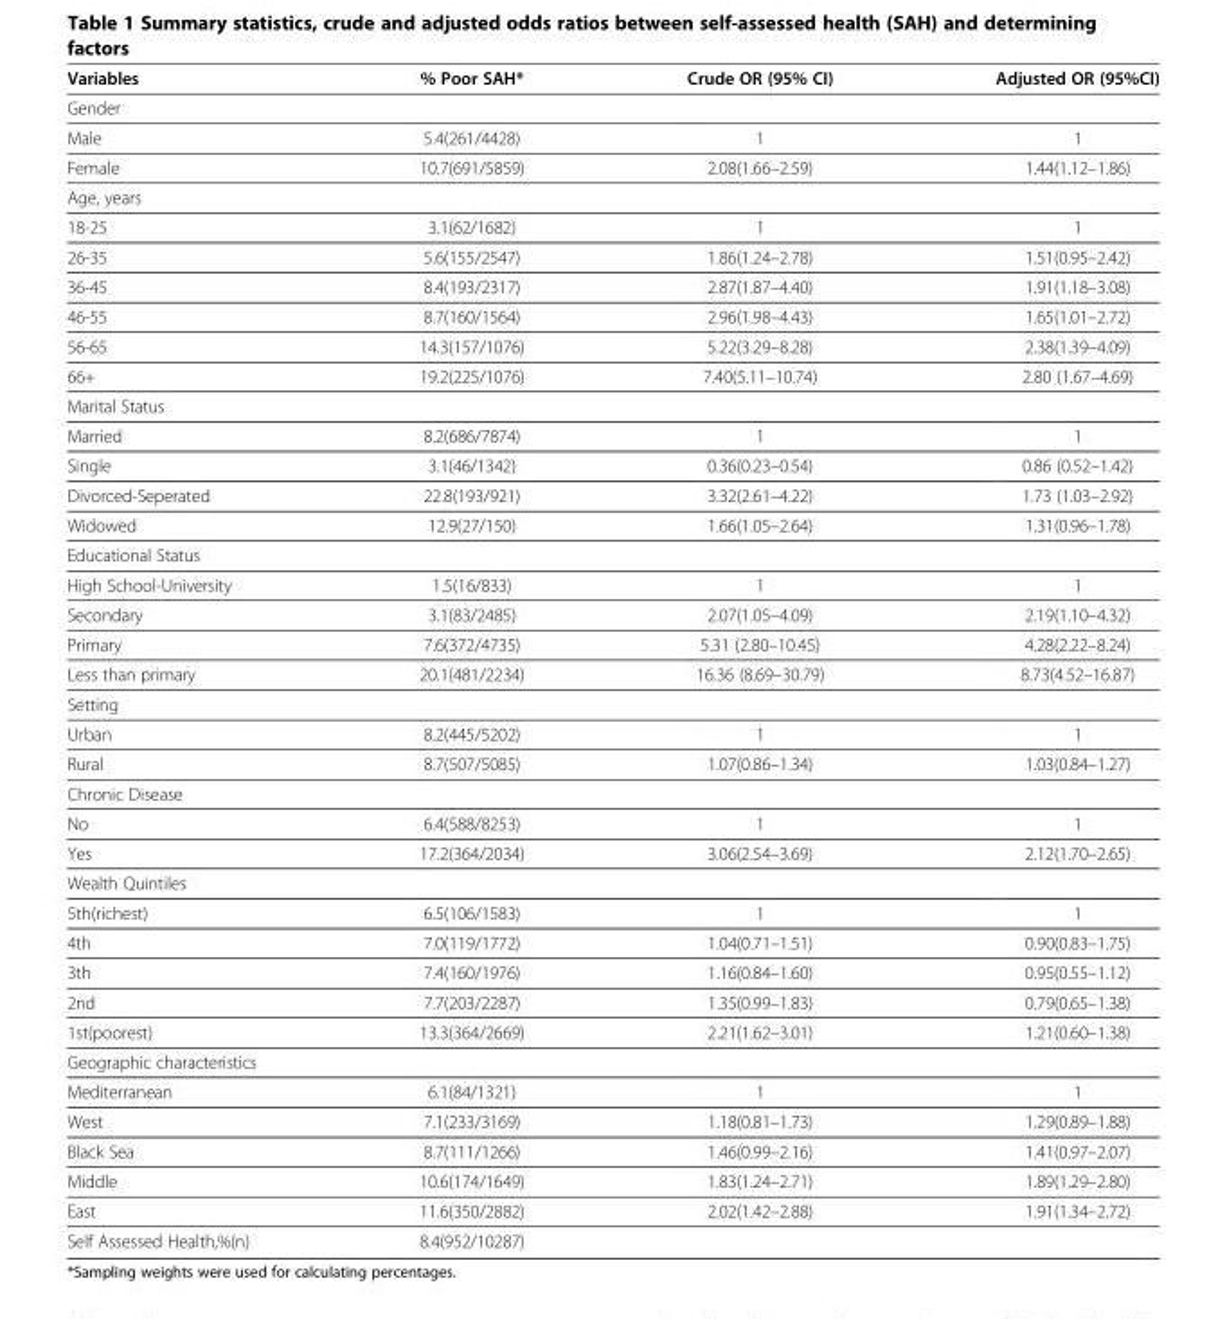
<table><thead><tr><td>Variables</td><td>% Poor SAH*</td><td>Crude OR (95% CI)</td><td>Adjusted OR (95%CI)</td></tr></thead><tbody><tr><td colspan="4">Gender</td></tr><tr><td>Male</td><td>5.4(261/4428)</td><td>1</td><td>1</td></tr><tr><td>Female</td><td>10.7(691/5859)</td><td>2.08(1.66–2.59)</td><td>1.44(1.12–1.86)</td></tr><tr><td colspan="4">Age, years</td></tr><tr><td>18-25</td><td>3.1(62/1682)</td><td>1</td><td>1</td></tr><tr><td>26-35</td><td>5.6(155/2547)</td><td>1.86(1.24–2.78)</td><td>1.51(0.95–2.42)</td></tr><tr><td>36-45</td><td>8.4(193/2317)</td><td>2.87(1.87–4.40)</td><td>1.91(1.18–3.08)</td></tr><tr><td>46-55</td><td>8.7(160/1564)</td><td>2.96(1.98–4.43)</td><td>1.65(1.01–2.72)</td></tr><tr><td>56-65</td><td>14.3(157/1076)</td><td>5.22(3.29–8.28)</td><td>2.38(1.39–4.09)</td></tr><tr><td>66+</td><td>19.2(225/1076)</td><td>7.40(5.11–10.74)</td><td>2.80 (1.67–4.69)</td></tr><tr><td colspan="4">Marital Status</td></tr><tr><td>Married</td><td>8.2(686/7874)</td><td>1</td><td>1</td></tr><tr><td>Single</td><td>3.1(46/1342)</td><td>0.36(0.23–0.54)</td><td>0.86 (0.52–1.42)</td></tr><tr><td>Divorced-Seperated</td><td>22.8(193/921)</td><td>3.32(2.61–4.22)</td><td>1.73 (1.03–2.92)</td></tr><tr><td>Widowed</td><td>12.9(27/150)</td><td>1.66(1.05–2.64)</td><td>1.31(0.96–1.78)</td></tr><tr><td colspan="4">Educational Status</td></tr><tr><td>High School-University</td><td>1.5(16/833)</td><td>1</td><td>1</td></tr><tr><td>Secondary</td><td>3.1(83/2485)</td><td>2.07(1.05–4.09)</td><td>2.19(1.10–4.32)</td></tr><tr><td>Primary</td><td>7.6(372/4735)</td><td>5.31 (2.80–10.45)</td><td>4.28(2.22–8.24)</td></tr><tr><td>Less than primary</td><td>20.1(481/2234)</td><td>16.36 (8.69–30.79)</td><td>8.73(4.52–16.87)</td></tr><tr><td colspan="4">Setting</td></tr><tr><td>Urban</td><td>8.2(445/5202)</td><td>1</td><td>1</td></tr><tr><td>Rural</td><td>8.7(507/5085)</td><td>1.07(0.86–1.34)</td><td>1.03(0.84–1.27)</td></tr><tr><td colspan="4">Chronic Disease</td></tr><tr><td>No</td><td>6.4(588/8253)</td><td>1</td><td>1</td></tr><tr><td>Yes</td><td>17.2(364/2034)</td><td>3.06(2.54–3.69)</td><td>2.12(1.70–2.65)</td></tr><tr><td colspan="4">Wealth Quintiles</td></tr><tr><td>5th(richest)</td><td>6.5(106/1583)</td><td>1</td><td>1</td></tr><tr><td>4th</td><td>7.0(119/1772)</td><td>1.04(0.71–1.51)</td><td>0.90(0.83–1.75)</td></tr><tr><td>3th</td><td>7.4(160/1976)</td><td>1.16(0.84–1.60)</td><td>0.95(0.55–1.12)</td></tr><tr><td>2nd</td><td>7.7(203/2287)</td><td>1.35(0.99–1.83)</td><td>0.79(0.65–1.38)</td></tr><tr><td>1st(poorest)</td><td>13.3(364/2669)</td><td>2.21(1.62–3.01)</td><td>1.21(0.60–1.38)</td></tr><tr><td colspan="4">Geographic characteristics</td></tr><tr><td>Mediterranean</td><td>6.1(84/1321)</td><td>1</td><td>1</td></tr><tr><td>West</td><td>7.1(233/3169)</td><td>1.18(0.81–1.73)</td><td>1.29(0.89–1.88)</td></tr><tr><td>Black Sea</td><td>8.7(111/1266)</td><td>1.46(0.99–2.16)</td><td>1.41(0.97–2.07)</td></tr><tr><td>Middle</td><td>10.6(174/1649)</td><td>1.83(1.24–2.71)</td><td>1.89(1.29–2.80)</td></tr><tr><td>East</td><td>11.6(350/2882)</td><td>2.02(1.42–2.88)</td><td>1.91(1.34–2.72)</td></tr><tr><td>Self Assessed Health,%(n)</td><td>8.4(952/10287)</td><td></td><td></td></tr></tbody></table>